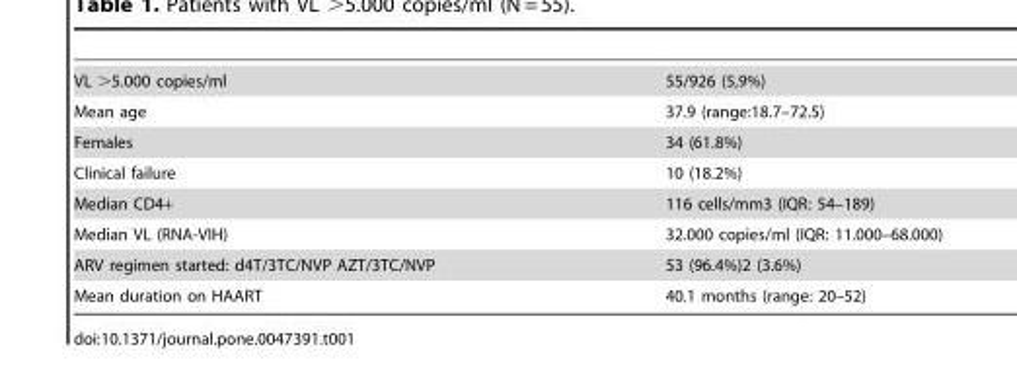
<table><tbody><tr><td>VL &gt;5.000 copies/ml</td><td>55/926 (5,9%)</td></tr><tr><td>Mean age</td><td>37.9 (range:18.7–72.5)</td></tr><tr><td>Females</td><td>34 (61.8%)</td></tr><tr><td>Clinical failure</td><td>10 (18.2%)</td></tr><tr><td>Median CD4+</td><td>116 cells/mm3 (IQR: 54–189)</td></tr><tr><td>Median VL (RNA-VIH)</td><td>32.000 copies/ml (IQR: 11.000–68.000)</td></tr><tr><td>ARV regimen started: d4T/3TC/NVP AZT/3TC/NVP</td><td>53 (96.4%)2 (3.6%)</td></tr><tr><td>Mean duration on HAART</td><td>40.1 months (range: 20–52)</td></tr></tbody></table>